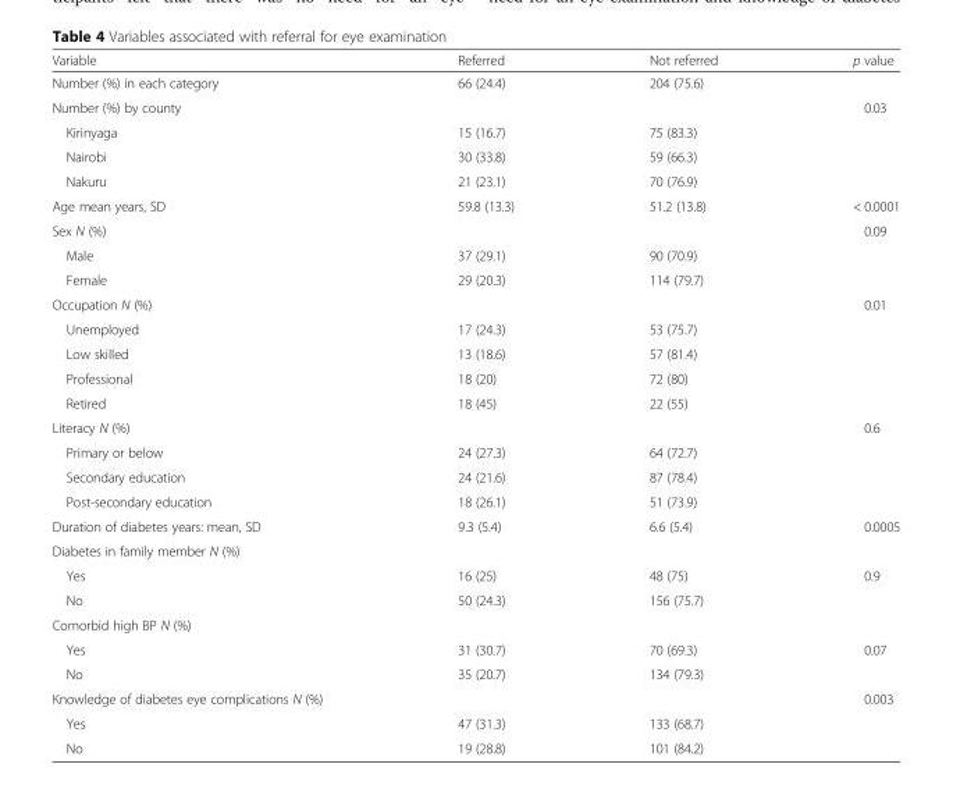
<table><thead><tr><td>Variable</td><td>Referred</td><td>Not referred</td><td>p value</td></tr></thead><tbody><tr><td>Number (%) in each category</td><td>66 (24.4)</td><td>204 (75.6)</td><td></td></tr><tr><td>Number (%) by county</td><td></td><td></td><td>0.03</td></tr><tr><td>Kirinyaga</td><td>15 (16.7)</td><td>75 (83.3)</td><td></td></tr><tr><td>Nairobi</td><td>30 (33.8)</td><td>59 (66.3)</td><td></td></tr><tr><td>Nakuru</td><td>21 (23.1)</td><td>70 (76.9)</td><td></td></tr><tr><td>Age mean years, SD</td><td>59.8 (13.3)</td><td>51.2 (13.8)</td><td>&lt; 0.0001</td></tr><tr><td>Sex N (%)</td><td></td><td></td><td>0.09</td></tr><tr><td>Male</td><td>37 (29.1)</td><td>90 (70.9)</td><td></td></tr><tr><td>Female</td><td>29 (20.3)</td><td>114 (79.7)</td><td></td></tr><tr><td>Occupation N (%)</td><td></td><td></td><td>0.01</td></tr><tr><td>Unemployed</td><td>17 (24.3)</td><td>53 (75.7)</td><td></td></tr><tr><td>Low skilled</td><td>13 (18.6)</td><td>57 (81.4)</td><td></td></tr><tr><td>Professional</td><td>18 (20)</td><td>72 (80)</td><td></td></tr><tr><td>Retired</td><td>18 (45)</td><td>22 (55)</td><td></td></tr><tr><td>Literacy N (%)</td><td></td><td></td><td>0.6</td></tr><tr><td>Primary or below</td><td>24 (27.3)</td><td>64 (72.7)</td><td></td></tr><tr><td>Secondary education</td><td>24 (21.6)</td><td>87 (78.4)</td><td></td></tr><tr><td>Post-secondary education</td><td>18 (26.1)</td><td>51 (73.9)</td><td></td></tr><tr><td>Duration of diabetes years: mean, SD</td><td>9.3 (5.4)</td><td>6.6 (5.4)</td><td>0.0005</td></tr><tr><td colspan="4">Diabetes in family member N (%)</td></tr><tr><td>Yes</td><td>16 (25)</td><td>48 (75)</td><td>0.9</td></tr><tr><td>No</td><td>50 (24.3)</td><td>156 (75.7)</td><td></td></tr><tr><td colspan="4">Comorbid high BP N (%)</td></tr><tr><td>Yes</td><td>31 (30.7)</td><td>70 (69.3)</td><td>0.07</td></tr><tr><td>No</td><td>35 (20.7)</td><td>134 (79.3)</td><td></td></tr><tr><td>Knowledge of diabetes eye complications N (%)</td><td></td><td></td><td>0.003</td></tr><tr><td>Yes</td><td>47 (31.3)</td><td>133 (68.7)</td><td></td></tr><tr><td>No</td><td>19 (28.8)</td><td>101 (84.2)</td><td></td></tr></tbody></table>